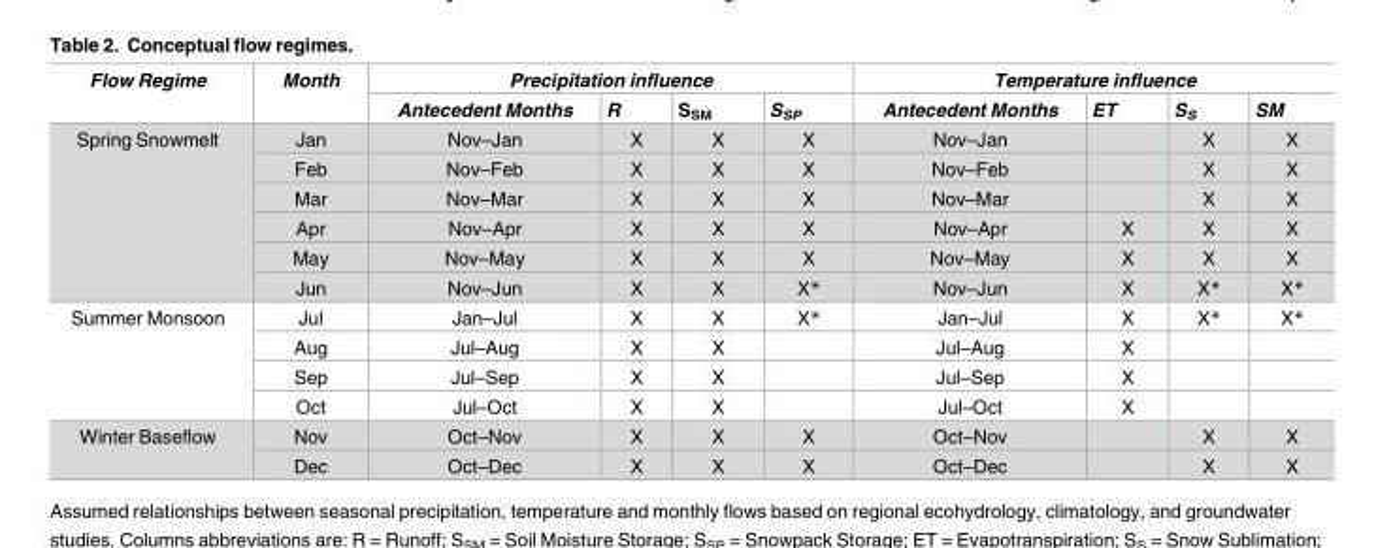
<table><thead><tr><td rowspan="2">Flow Regime</td><td rowspan="2">Month</td><td colspan="4">Precipitation influence</td><td colspan="4">Temperature influence</td></tr><tr><td>Antecedent Months</td><td>R</td><td>S<sub>SM</sub></td><td>S<sub>SP</sub></td><td>Antecedent Months</td><td>ET</td><td>S<sub>S</sub></td><td>SM</td></tr></thead><tbody><tr><td rowspan="6">Spring Snowmelt</td><td>Jan</td><td>Nov–Jan</td><td>X</td><td>X</td><td>X</td><td>Nov–Jan</td><td></td><td>X</td><td>X</td></tr><tr><td>Feb</td><td>Nov–Feb</td><td>X</td><td>X</td><td>X</td><td>Nov–Feb</td><td></td><td>X</td><td>X</td></tr><tr><td>Mar</td><td>Nov–Mar</td><td>X</td><td>X</td><td>X</td><td>Nov–Mar</td><td></td><td>X</td><td>X</td></tr><tr><td>Apr</td><td>Nov–Apr</td><td>X</td><td>X</td><td>X</td><td>Nov–Apr</td><td>X</td><td>X</td><td>X</td></tr><tr><td>May</td><td>Nov–May</td><td>X</td><td>X</td><td>X</td><td>Nov–May</td><td>X</td><td>X</td><td>X</td></tr><tr><td>Jun</td><td>Nov–Jun</td><td>X</td><td>X</td><td>X*</td><td>Nov–Jun</td><td>X</td><td>X*</td><td>X*</td></tr><tr><td rowspan="4">Summer Monsoon</td><td>Jul</td><td>Jan–Jul</td><td>X</td><td>X</td><td>X*</td><td>Jan–Jul</td><td>X</td><td>X*</td><td>X*</td></tr><tr><td>Aug</td><td>Jul–Aug</td><td>X</td><td>X</td><td></td><td>Jul–Aug</td><td>X</td><td></td><td></td></tr><tr><td>Sep</td><td>Jul–Sep</td><td>X</td><td>X</td><td></td><td>Jul–Sep</td><td>X</td><td></td><td></td></tr><tr><td>Oct</td><td>Jul–Oct</td><td>X</td><td>X</td><td></td><td>Jul–Oct</td><td>X</td><td></td><td></td></tr><tr><td rowspan="2">Winter Baseflow</td><td>Nov</td><td>Oct–Nov</td><td>X</td><td>X</td><td>X</td><td>Oct–Nov</td><td></td><td>X</td><td>X</td></tr><tr><td>Dec</td><td>Oct–Dec</td><td>X</td><td>X</td><td>X</td><td>Oct–Dec</td><td></td><td>X</td><td>X</td></tr></tbody></table>